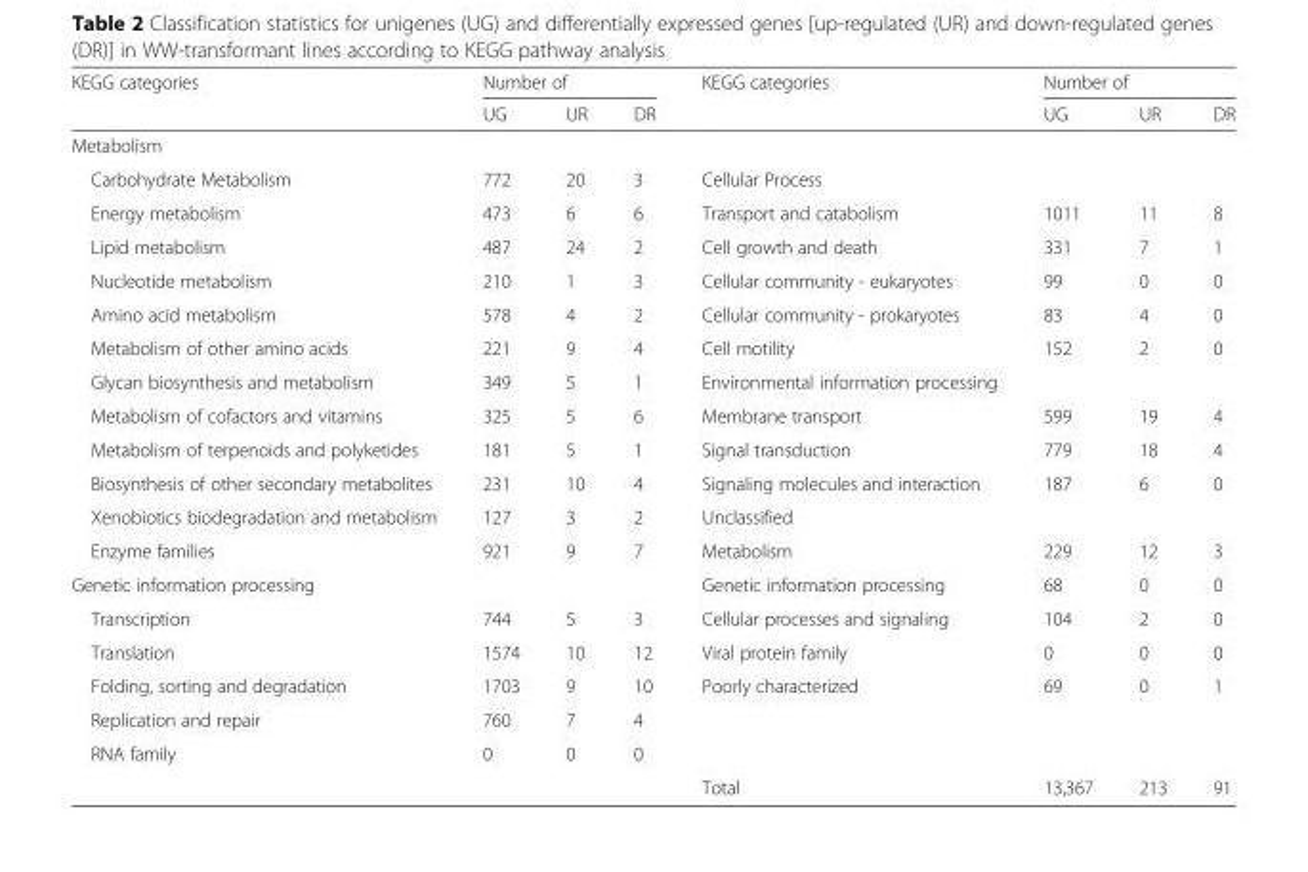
<table><thead><tr><td rowspan="2">KEGG categories</td><td colspan="3">Number of</td><td rowspan="2">KEGG categories</td><td colspan="3">Number of</td></tr><tr><td>UG</td><td>UR</td><td>DR</td><td>UG</td><td>UR</td><td>DR</td></tr></thead><tbody><tr><td colspan="8">Metabolism</td></tr><tr><td>Carbohydrate Metabolism</td><td>772</td><td>20</td><td>3</td><td>Cellular Process</td><td></td><td></td><td></td></tr><tr><td>Energy metabolism</td><td>473</td><td>6</td><td>6</td><td>Transport and catabolism</td><td>1011</td><td>11</td><td>8</td></tr><tr><td>Lipid metabolism</td><td>487</td><td>24</td><td>2</td><td>Cell growth and death</td><td>331</td><td>7</td><td>1</td></tr><tr><td>Nucleotide metabolism</td><td>210</td><td>1</td><td>3</td><td>Cellular community - eukaryotes</td><td>99</td><td>0</td><td>0</td></tr><tr><td>Amino acid metabolism</td><td>578</td><td>4</td><td>2</td><td>Cellular community - prokaryotes</td><td>83</td><td>4</td><td>0</td></tr><tr><td>Metabolism of other amino acids</td><td>221</td><td>9</td><td>4</td><td>Cell motility</td><td>152</td><td>2</td><td>0</td></tr><tr><td>Glycan biosynthesis and metabolism</td><td>349</td><td>5</td><td>1</td><td>Environmental information processing</td><td></td><td></td><td></td></tr><tr><td>Metabolism of cofactors and vitamins</td><td>325</td><td>5</td><td>6</td><td>Membrane transport</td><td>599</td><td>19</td><td>4</td></tr><tr><td>Metabolism of terpenoids and polyketides</td><td>181</td><td>5</td><td>1</td><td>Signal transduction</td><td>779</td><td>18</td><td>4</td></tr><tr><td>Biosynthesis of other secondary metabolites</td><td>231</td><td>10</td><td>4</td><td>Signaling molecules and interaction</td><td>187</td><td>6</td><td>0</td></tr><tr><td>Xenobiotics biodegradation and metabolism</td><td>127</td><td>3</td><td>2</td><td>Unclassified</td><td></td><td></td><td></td></tr><tr><td>Enzyme families</td><td>921</td><td>9</td><td>7</td><td>Metabolism</td><td>229</td><td>12</td><td>3</td></tr><tr><td>Genetic information processing</td><td></td><td></td><td></td><td>Genetic information processing</td><td>68</td><td>0</td><td>0</td></tr><tr><td>Transcription</td><td>744</td><td>5</td><td>3</td><td>Cellular processes and signaling</td><td>104</td><td>2</td><td>0</td></tr><tr><td>Translation</td><td>1574</td><td>10</td><td>12</td><td>Viral protein family</td><td>0</td><td>0</td><td>0</td></tr><tr><td>Folding, sorting and degradation</td><td>1703</td><td>9</td><td>10</td><td>Poorly characterized</td><td>69</td><td>0</td><td>1</td></tr><tr><td>Replication and repair</td><td>760</td><td>7</td><td>4</td><td></td><td></td><td></td><td></td></tr><tr><td rowspan="2">RNA family</td><td>0</td><td>0</td><td>0</td><td></td><td></td><td></td><td></td></tr><tr><td></td><td></td><td></td><td>Total</td><td>13,367</td><td>213</td><td>91</td></tr></tbody></table>